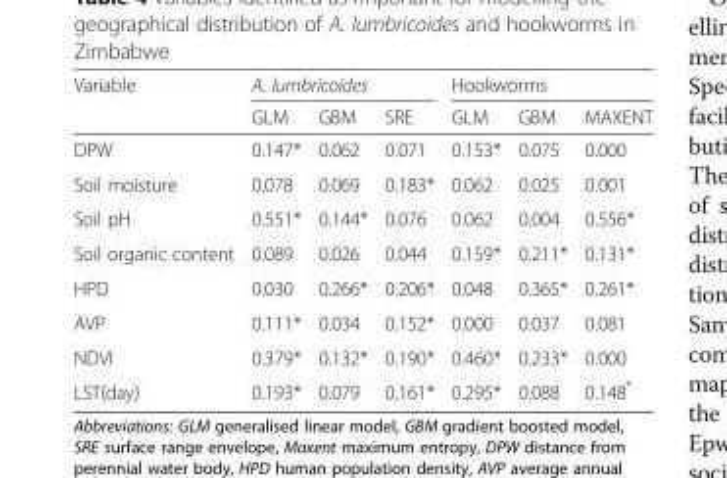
<table><thead><tr><td rowspan="2">Variable</td><td colspan="3">A. lumbricoides</td><td colspan="3">Hookworms</td></tr><tr><td>GLM</td><td>GBM</td><td>SRE</td><td>GLM</td><td>GBM</td><td>MAXENT</td></tr></thead><tbody><tr><td>DPW</td><td>0.147*</td><td>0.062</td><td>0.071</td><td>0.153*</td><td>0.075</td><td>0.000</td></tr><tr><td>Soil moisture</td><td>0.078</td><td>0.069</td><td>0.183*</td><td>0.062</td><td>0.025</td><td>0.001</td></tr><tr><td>Soil pH</td><td>0.551*</td><td>0.144*</td><td>0.076</td><td>0.062</td><td>0.004</td><td>0.556*</td></tr><tr><td>Soil organic content</td><td>0.089</td><td>0.026</td><td>0.044</td><td>0.159*</td><td>0.211*</td><td>0.131*</td></tr><tr><td>HPD</td><td>0.030</td><td>0.266*</td><td>0.206*</td><td>0.048</td><td>0.365*</td><td>0.261*</td></tr><tr><td>AVP</td><td>0.111*</td><td>0.034</td><td>0.152*</td><td>0.000</td><td>0.037</td><td>0.081</td></tr><tr><td>NDVI</td><td>0.379*</td><td>0.132*</td><td>0.190*</td><td>0.460*</td><td>0.233*</td><td>0.000</td></tr><tr><td>LST(day)</td><td>0.193*</td><td>0.079</td><td>0.161*</td><td>0.295*</td><td>0.088</td><td>0.148*</td></tr></tbody></table>